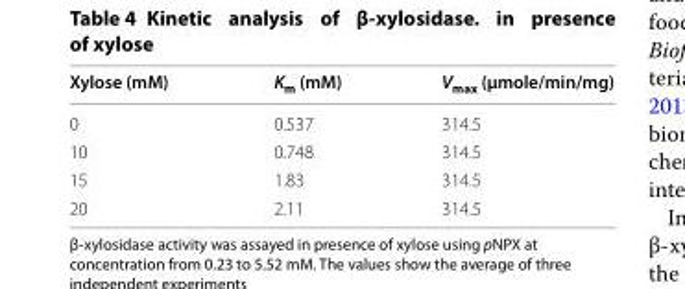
<table><thead><tr><td>Xylose (mM)</td><td>K<sub>m</sub> (mM)</td><td>V<sub>max</sub> (µmole/min/mg)</td></tr></thead><tbody><tr><td>0</td><td>0.537</td><td>314.5</td></tr><tr><td>10</td><td>0.748</td><td>314.5</td></tr><tr><td>15</td><td>1.83</td><td>314.5</td></tr><tr><td>20</td><td>2.11</td><td>314.5</td></tr></tbody></table>